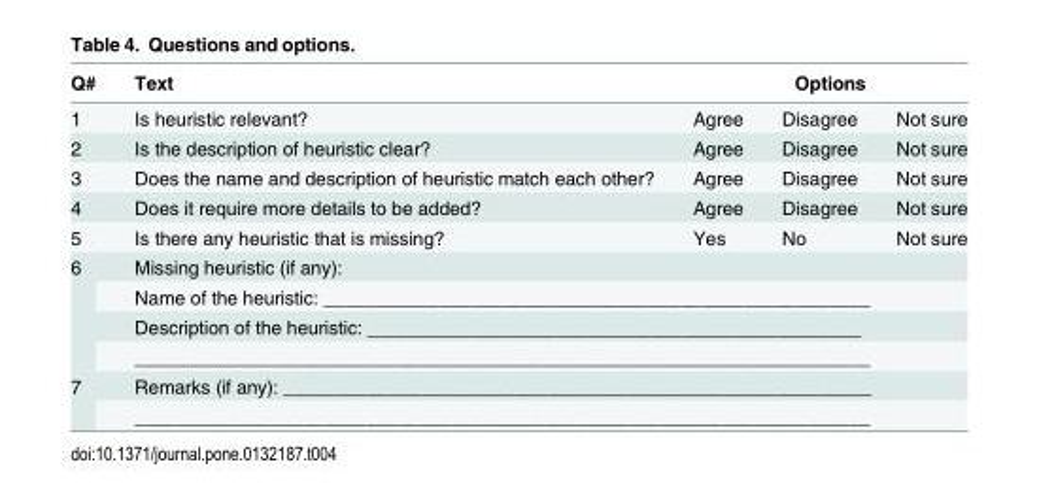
<table><thead><tr><td rowspan="2">Q# 1</td><td rowspan="2">Text Is heuristic relevant?</td><td colspan="3">Options</td></tr><tr><td>Agree</td><td>Disagree</td><td>Not sure</td></tr></thead><tbody><tr><td>2</td><td>Is the description of heuristic clear?</td><td>Agree</td><td>Disagree</td><td>Not sure</td></tr><tr><td>3</td><td>Does the name and description of heuristic match each other?</td><td>Agree</td><td>Disagree</td><td>Not sure</td></tr><tr><td>4</td><td>Does it require more details to be added?</td><td>Agree</td><td>Disagree</td><td>Not sure</td></tr><tr><td>5</td><td>Is there any heuristic that is missing?</td><td>Yes</td><td>No</td><td>Not sure</td></tr><tr><td rowspan="4">6</td><td colspan="4">Missing heuristic (if any):</td></tr><tr><td colspan="4">Name of the heuristic: ____________________________________________________</td></tr><tr><td colspan="4">Description of the heuristic: _______________________________________________</td></tr><tr><td colspan="4">______________________________________________________________________</td></tr><tr><td rowspan="2">7</td><td colspan="4">Remarks (if any): ________________________________________________________</td></tr><tr><td colspan="4">______________________________________________________________________</td></tr></tbody></table>